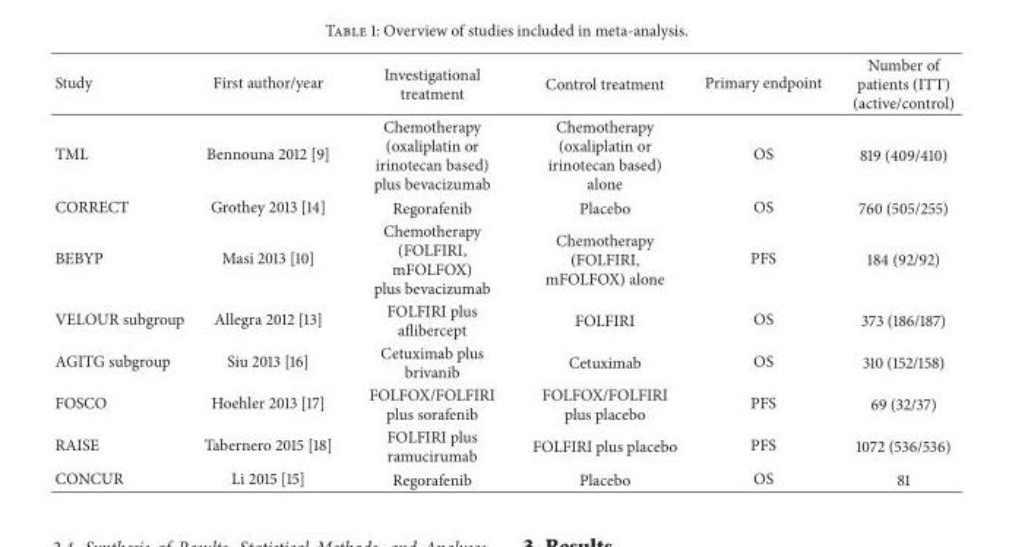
<table><thead><tr><td>Study</td><td>First author/year</td><td>Investigational treatment</td><td>Control treatment</td><td>Primary endpoint</td><td>Number of patients (ITT) (active/control)</td></tr></thead><tbody><tr><td>TML</td><td>Bennouna 2012 [9]</td><td>Chemotherapy (oxaliplatin or irinotecan based) plus bevacizumab</td><td>Chemotherapy (oxaliplatin or irinotecan based) alone</td><td>OS</td><td>819 (409/410)</td></tr><tr><td>CORRECT</td><td>Grothey 2013 [14]</td><td>Regorafenib</td><td>Placebo</td><td>OS</td><td>760 (505/255)</td></tr><tr><td>BEBYP</td><td>Masi 2013 [10]</td><td>Chemotherapy (FOLFIRI, mFOLFOX) plus bevacizumab</td><td>Chemotherapy (FOLFIRI, mFOLFOX) alone</td><td>PFS</td><td>184 (92/92)</td></tr><tr><td>VELOUR subgroup</td><td>Allegra 2012 [13]</td><td>FOLFIRI plus aflibercept</td><td>FOLFIRI</td><td>OS</td><td>373 (186/187)</td></tr><tr><td>AGITG subgroup</td><td>Siu 2013 [16]</td><td>Cetuximab plus brivanib</td><td>Cetuximab</td><td>OS</td><td>310 (152/158)</td></tr><tr><td>FOSCO</td><td>Hoehler 2013 [17]</td><td>FOLFOX/FOLFIRI plus sorafenib</td><td>FOLFOX/FOLFIRI plus placebo</td><td>PFS</td><td>69 (32/37)</td></tr><tr><td>RAISE</td><td>Tabernero 2015 [18]</td><td>FOLFIRI plus ramucirumab</td><td>FOLFIRI plus placebo</td><td>PFS</td><td>1072 (536/536)</td></tr><tr><td>CONCUR</td><td>Li 2015 [15]</td><td>Regorafenib</td><td>Placebo</td><td>OS</td><td>81</td></tr></tbody></table>